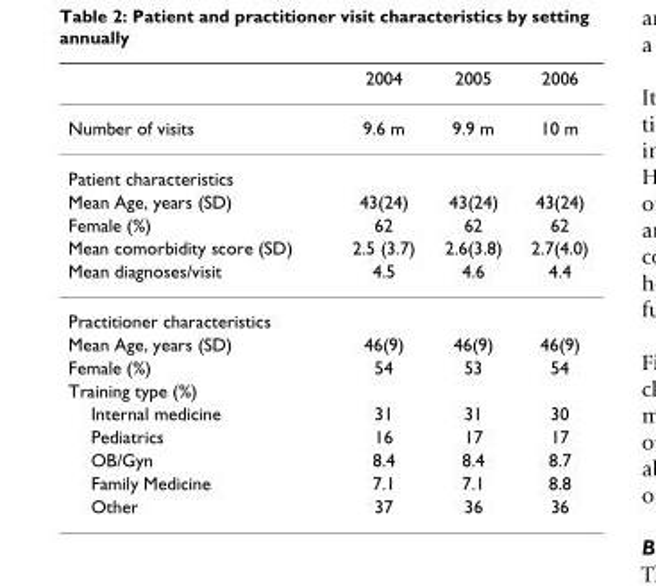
<table><thead><tr><td></td><td>2004</td><td>2005</td><td>2006</td></tr></thead><tbody><tr><td>Number of visits</td><td>9.6 m</td><td>9.9 m</td><td>10 m</td></tr><tr><td colspan="4">Patient characteristics</td></tr><tr><td>Mean Age, years (SD)</td><td>43(24)</td><td>43(24)</td><td>43(24)</td></tr><tr><td>Female (%)</td><td>62</td><td>62</td><td>62</td></tr><tr><td>Mean comorbidity score (SD)</td><td>2.5 (3.7)</td><td>2.6(3.8)</td><td>2.7(4.0)</td></tr><tr><td>Mean diagnoses/visit</td><td>4.5</td><td>4.6</td><td>4.4</td></tr><tr><td colspan="4">Practitioner characteristics</td></tr><tr><td>Mean Age, years (SD)</td><td>46(9)</td><td>46(9)</td><td>46(9)</td></tr><tr><td>Female (%)</td><td>54</td><td>53</td><td>54</td></tr><tr><td colspan="4">Training type (%)</td></tr><tr><td>Internal medicine</td><td>31</td><td>31</td><td>30</td></tr><tr><td>Pediatrics</td><td>16</td><td>17</td><td>17</td></tr><tr><td>OB/Gyn</td><td>8.4</td><td>8.4</td><td>8.7</td></tr><tr><td>Family Medicine</td><td>7.1</td><td>7.1</td><td>8.8</td></tr><tr><td>Other</td><td>37</td><td>36</td><td>36</td></tr></tbody></table>